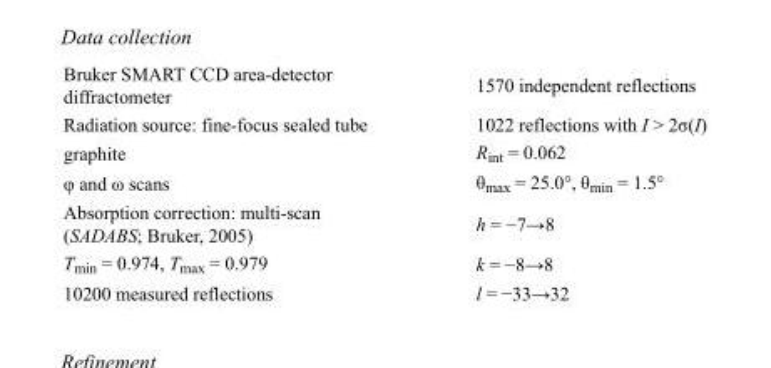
<table><tbody><tr><td>Bruker SMART CCD area-detector diffractometer</td><td>1570 independent reflections</td></tr><tr><td>Radiation source: fine-focus sealed tube</td><td>1022 reflections with I &gt; 2σ(I)</td></tr><tr><td>graphite</td><td>R<sub>int</sub> = 0.062</td></tr><tr><td>φ and ω scans</td><td>θ<sub>max</sub> = 25.0°, θ<sub>min</sub> = 1.5°</td></tr><tr><td>Absorption correction: multi-scan (SADABS; Bruker, 2005)</td><td>h = −7→8</td></tr><tr><td>T<sub>min</sub> = 0.974, T<sub>max</sub> = 0.979</td><td>k = −8→8</td></tr><tr><td>10200 measured reflections</td><td>l = −33→32</td></tr></tbody></table>